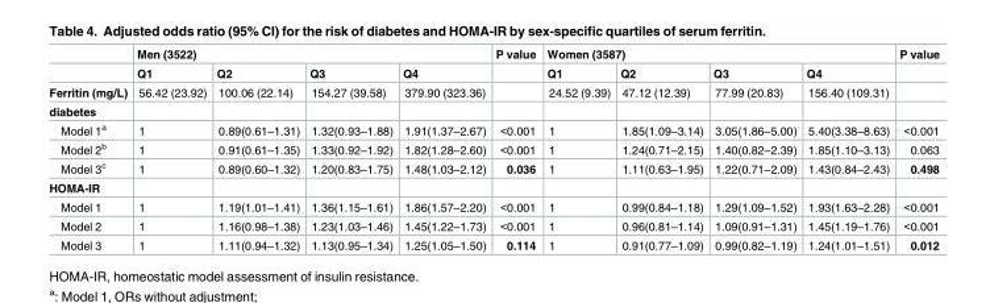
<table><thead><tr><td rowspan="2"></td><td colspan="4">Men (3522)</td><td rowspan="2">P value</td><td colspan="4">Women (3587)</td><td rowspan="2">P value</td></tr><tr><td>Q1</td><td>Q2</td><td>Q3</td><td>Q4</td><td>Q1</td><td>Q2</td><td>Q3</td><td>Q4</td></tr></thead><tbody><tr><td>Ferritin (mg/L)</td><td>56.42 (23.92)</td><td>100.06 (22.14)</td><td>154.27 (39.58)</td><td>379.90 (323.36)</td><td></td><td>24.52 (9.39)</td><td>47.12 (12.39)</td><td>77.99 (20.83)</td><td>156.40 (109.31)</td><td></td></tr><tr><td colspan="11">diabetes</td></tr><tr><td>Model 1<sup>a</sup></td><td>1</td><td>0.89(0.61–1.31)</td><td>1.32(0.93–1.88)</td><td>1.91(1.37–2.67)</td><td>&lt;0.001</td><td>1</td><td>1.85(1.09–3.14)</td><td>3.05(1.86–5.00)</td><td>5.40(3.38–8.63)</td><td>&lt;0.001</td></tr><tr><td>Model 2<sup>b</sup></td><td>1</td><td>0.91(0.61–1.35)</td><td>1.33(0.92–1.92)</td><td>1.82(1.28–2.60)</td><td>&lt;0.001</td><td>1</td><td>1.24(0.71–2.15)</td><td>1.40(0.82–2.39)</td><td>1.85(1.10–3.13)</td><td>0.063</td></tr><tr><td>Model 3<sup>c</sup></td><td>1</td><td>0.89(0.60–1.32)</td><td>1.20(0.83–1.75)</td><td>1.48(1.03–2.12)</td><td>0.036</td><td>1</td><td>1.11(0.63–1.95)</td><td>1.22(0.71–2.09)</td><td>1.43(0.84–2.43)</td><td>0.498</td></tr><tr><td colspan="11">HOMA-IR</td></tr><tr><td>Model 1</td><td>1</td><td>1.19(1.01–1.41)</td><td>1.36(1.15–1.61)</td><td>1.86(1.57–2.20)</td><td>&lt;0.001</td><td>1</td><td>0.99(0.84–1.18)</td><td>1.29(1.09–1.52)</td><td>1.93(1.63–2.28)</td><td>&lt;0.001</td></tr><tr><td>Model 2</td><td>1</td><td>1.16(0.98–1.38)</td><td>1.23(1.03–1.46)</td><td>1.45(1.22–1.73)</td><td>&lt;0.001</td><td>1</td><td>0.96(0.81–1.14)</td><td>1.09(0.91–1.31)</td><td>1.45(1.19–1.76)</td><td>&lt;0.001</td></tr><tr><td>Model 3</td><td>1</td><td>1.11(0.94–1.32)</td><td>1.13(0.95–1.34)</td><td>1.25(1.05–1.50)</td><td>0.114</td><td>1</td><td>0.91(0.77–1.09)</td><td>0.99(0.82–1.19)</td><td>1.24(1.01–1.51)</td><td>0.012</td></tr></tbody></table>